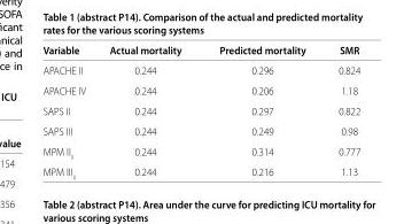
<table><thead><tr><td>Variable</td><td>Actual mortality</td><td>Predicted mortality</td><td>SMR</td></tr></thead><tbody><tr><td>APACHE II</td><td>0.244</td><td>0.296</td><td>0.824</td></tr><tr><td>APACHE IV</td><td>0.244</td><td>0.206</td><td>1.18</td></tr><tr><td>SAPS II</td><td>0.244</td><td>0.297</td><td>0.822</td></tr><tr><td>SAPS III</td><td>0.244</td><td>0.249</td><td>0.98</td></tr><tr><td>MPM II<sub>0</sub></td><td>0.244</td><td>0.314</td><td>0.777</td></tr><tr><td>MPM III<sub>0</sub></td><td>0.244</td><td>0.216</td><td>1.13</td></tr></tbody></table>